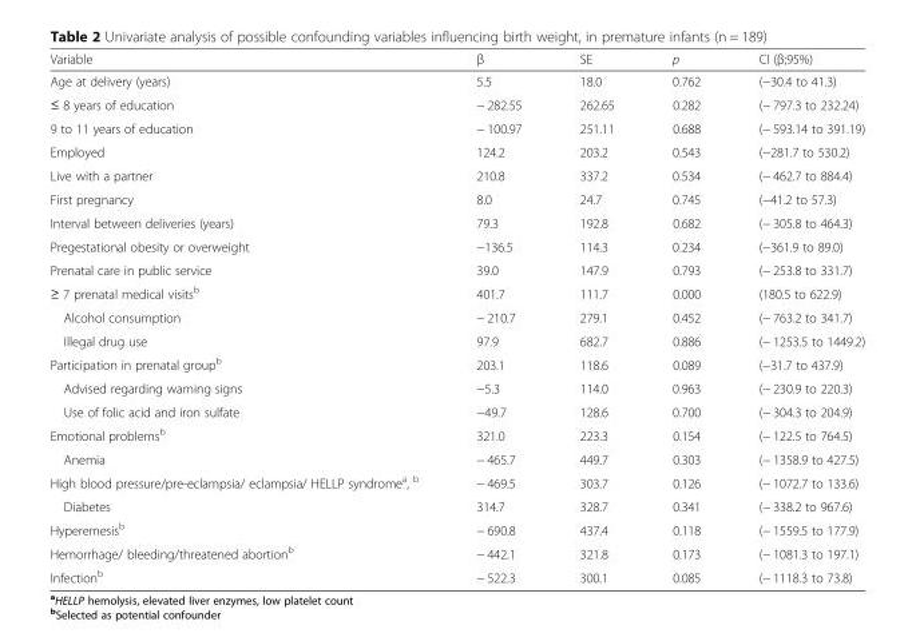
<table><thead><tr><td>Variable</td><td>β</td><td>SE</td><td>p</td><td>CI (β;95%)</td></tr></thead><tbody><tr><td>Age at delivery (years)</td><td>5.5</td><td>18.0</td><td>0.762</td><td>(−30.4 to 41.3)</td></tr><tr><td>≤ 8 years of education</td><td>− 282.55</td><td>262.65</td><td>0.282</td><td>(− 797.3 to 232.24)</td></tr><tr><td>9 to 11 years of education</td><td>− 100.97</td><td>251.11</td><td>0.688</td><td>(− 593.14 to 391.19)</td></tr><tr><td>Employed</td><td>124.2</td><td>203.2</td><td>0.543</td><td>(−281.7 to 530.2)</td></tr><tr><td>Live with a partner</td><td>210.8</td><td>337.2</td><td>0.534</td><td>(− 462.7 to 884.4)</td></tr><tr><td>First pregnancy</td><td>8.0</td><td>24.7</td><td>0.745</td><td>(−41.2 to 57.3)</td></tr><tr><td>Interval between deliveries (years)</td><td>79.3</td><td>192.8</td><td>0.682</td><td>(− 305.8 to 464.3)</td></tr><tr><td>Pregestational obesity or overweight</td><td>−136.5</td><td>114.3</td><td>0.234</td><td>(−361.9 to 89.0)</td></tr><tr><td>Prenatal care in public service</td><td>39.0</td><td>147.9</td><td>0.793</td><td>(− 253.8 to 331.7)</td></tr><tr><td>≥ 7 prenatal medical visits<sup>b</sup></td><td>401.7</td><td>111.7</td><td>0.000</td><td>(180.5 to 622.9)</td></tr><tr><td>Alcohol consumption</td><td>− 210.7</td><td>279.1</td><td>0.452</td><td>(− 763.2 to 341.7)</td></tr><tr><td>Illegal drug use</td><td>97.9</td><td>682.7</td><td>0.886</td><td>(− 1253.5 to 1449.2)</td></tr><tr><td>Participation in prenatal group<sup>b</sup></td><td>203.1</td><td>118.6</td><td>0.089</td><td>(−31.7 to 437.9)</td></tr><tr><td>Advised regarding warning signs</td><td>−5.3</td><td>114.0</td><td>0.963</td><td>(− 230.9 to 220.3)</td></tr><tr><td>Use of folic acid and iron sulfate</td><td>−49.7</td><td>128.6</td><td>0.700</td><td>(− 304.3 to 204.9)</td></tr><tr><td>Emotional problems<sup>b</sup></td><td>321.0</td><td>223.3</td><td>0.154</td><td>(− 122.5 to 764.5)</td></tr><tr><td>Anemia</td><td>− 465.7</td><td>449.7</td><td>0.303</td><td>(− 1358.9 to 427.5)</td></tr><tr><td>High blood pressure/pre-eclampsia/ eclampsia/ HELLP syndrome<sup>a</sup>, <sup>b</sup></td><td>− 469.5</td><td>303.7</td><td>0.126</td><td>(− 1072.7 to 133.6)</td></tr><tr><td>Diabetes</td><td>314.7</td><td>328.7</td><td>0.341</td><td>(− 338.2 to 967.6)</td></tr><tr><td>Hyperemesis<sup>b</sup></td><td>− 690.8</td><td>437.4</td><td>0.118</td><td>(− 1559.5 to 177.9)</td></tr><tr><td>Hemorrhage/ bleeding/threatened abortion<sup>b</sup></td><td>− 442.1</td><td>321.8</td><td>0.173</td><td>(− 1081.3 to 197.1)</td></tr><tr><td>Infection<sup>b</sup></td><td>− 522.3</td><td>300.1</td><td>0.085</td><td>(− 1118.3 to 73.8)</td></tr></tbody></table>